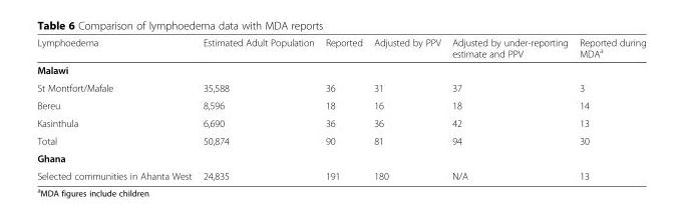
<table><thead><tr><td>Lymphoedema</td><td>Estimated Adult Population</td><td>Reported</td><td>Adjusted by PPV</td><td>Adjusted by under-reporting estimate and PPV</td><td>Reported during MDA<sup>a</sup></td></tr></thead><tbody><tr><td colspan="6">Malawi</td></tr><tr><td>St Montfort/Mafale</td><td>35,588</td><td>36</td><td>31</td><td>37</td><td>3</td></tr><tr><td>Bereu</td><td>8,596</td><td>18</td><td>16</td><td>18</td><td>14</td></tr><tr><td>Kasinthula</td><td>6,690</td><td>36</td><td>36</td><td>42</td><td>13</td></tr><tr><td>Total</td><td>50,874</td><td>90</td><td>81</td><td>94</td><td>30</td></tr><tr><td colspan="6">Ghana</td></tr><tr><td>Selected communities in Ahanta West</td><td>24,835</td><td>191</td><td>180</td><td>N/A</td><td>13</td></tr></tbody></table>